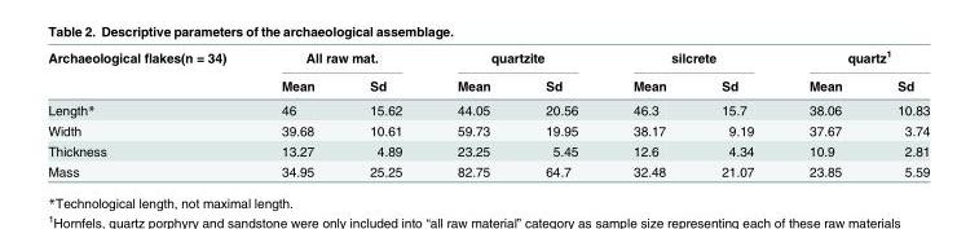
<table><thead><tr><td rowspan="2">Archaeological flakes(n = 34)</td><td colspan="2">All raw mat.</td><td colspan="2">quartzite</td><td colspan="2">silcrete</td><td colspan="2">quartz<sup>1</sup></td></tr><tr><td>Mean</td><td>Sd</td><td>Mean</td><td>Sd</td><td>Mean</td><td>Sd</td><td>Mean</td><td>Sd</td></tr></thead><tbody><tr><td>Length*</td><td>46</td><td>15.62</td><td>44.05</td><td>20.56</td><td>46.3</td><td>15.7</td><td>38.06</td><td>10.83</td></tr><tr><td>Width</td><td>39.68</td><td>10.61</td><td>59.73</td><td>19.95</td><td>38.17</td><td>9.19</td><td>37.67</td><td>3.74</td></tr><tr><td>Thickness</td><td>13.27</td><td>4.89</td><td>23.25</td><td>5.45</td><td>12.6</td><td>4.34</td><td>10.9</td><td>2.81</td></tr><tr><td>Mass</td><td>34.95</td><td>25.25</td><td>82.75</td><td>64.7</td><td>32.48</td><td>21.07</td><td>23.85</td><td>5.59</td></tr></tbody></table>